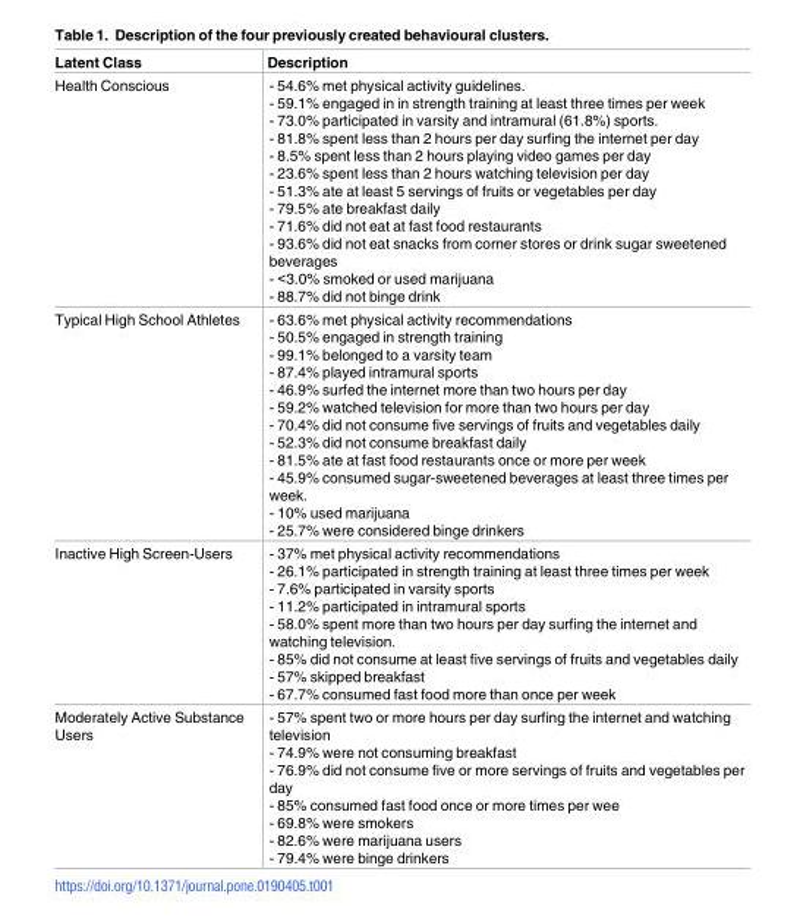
<table><thead><tr><td>Latent Class</td><td>Description</td></tr></thead><tbody><tr><td>Health Conscious</td><td>- 54.6% met physical activity guidelines. - 59.1% engaged in in strength training at least three times per week - 73.0% participated in varsity and intramural (61.8%) sports. - 81.8% spent less than 2 hours per day surfing the internet per day - 8.5% spent less than 2 hours playing video games per day - 23.6% spent less than 2 hours watching television per day - 51.3% ate at least 5 servings of fruits or vegetables per day - 79.5% ate breakfast daily - 71.6% did not eat at fast food restaurants - 93.6% did not eat snacks from corner stores or drink sugar sweetened beverages - &lt;3.0% smoked or used marijuana - 88.7% did not binge drink</td></tr><tr><td>Typical High School Athletes</td><td>- 63.6% met physical activity recommendations - 50.5% engaged in strength training - 99.1% belonged to a varsity team - 87.4% played intramural sports - 46.9% surfed the internet more than two hours per day - 59.2% watched television for more than two hours per day - 70.4% did not consume five servings of fruits and vegetables daily - 52.3% did not consume breakfast daily - 81.5% ate at fast food restaurants once or more per week - 45.9% consumed sugar-sweetened beverages at least three times per week. - 10% used marijuana - 25.7% were considered binge drinkers</td></tr><tr><td>Inactive High Screen-Users</td><td>- 37% met physical activity recommendations - 26.1% participated in strength training at least three times per week - 7.6% participated in varsity sports - 11.2% participated in intramural sports - 58.0% spent more than two hours per day surfing the internet and watching television. - 85% did not consume at least five servings of fruits and vegetables daily - 57% skipped breakfast - 67.7% consumed fast food more than once per week</td></tr><tr><td>Moderately Active Substance Users</td><td>- 57% spent two or more hours per day surfing the internet and watching television - 74.9% were not consuming breakfast - 76.9% did not consume five or more servings of fruits and vegetables per day - 85% consumed fast food once or more times per wee - 69.8% were smokers - 82.6% were marijuana users - 79.4% were binge drinkers</td></tr></tbody></table>